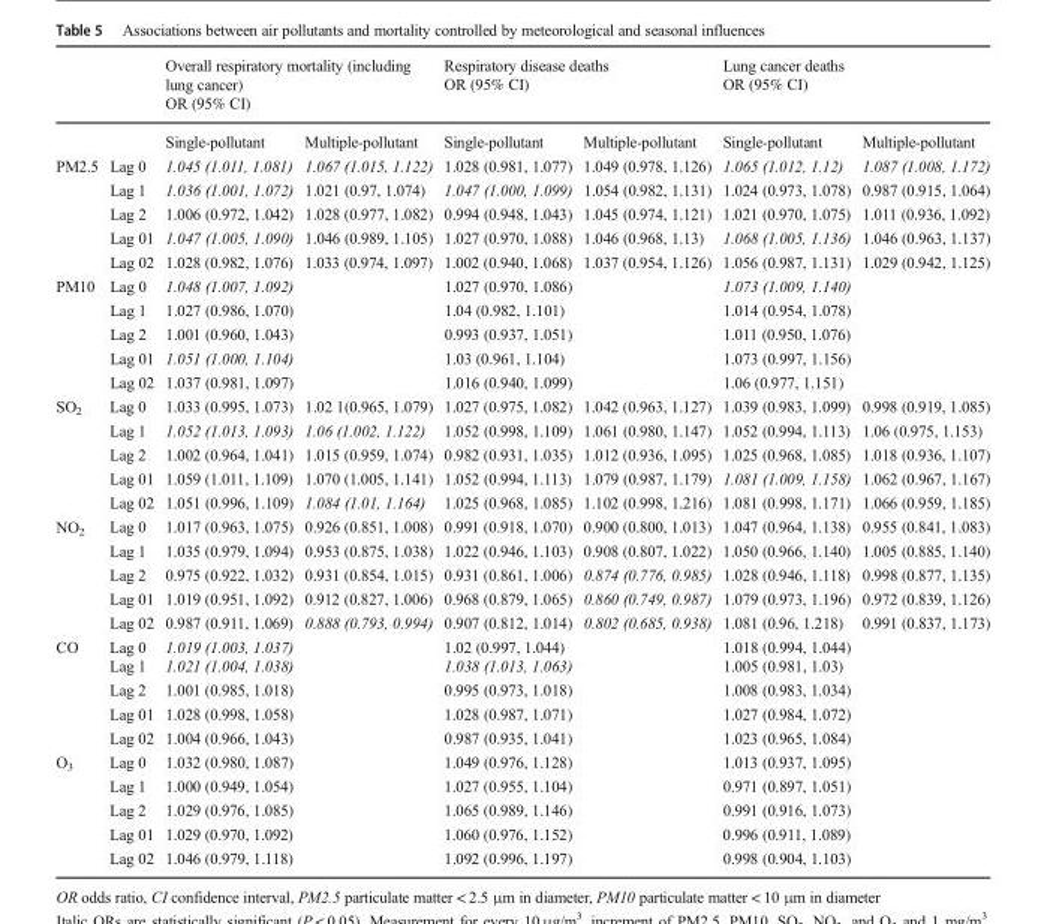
<table><thead><tr><td rowspan="2"></td><td rowspan="2"></td><td colspan="2">Overall respiratory mortality (including lung cancer) OR (95% CI)</td><td colspan="2">Respiratory disease deaths OR (95% CI)</td><td colspan="2">Lung cancer deaths OR (95% CI)</td></tr><tr><td>Single-pollutant</td><td>Multiple-pollutant</td><td>Single-pollutant</td><td>Multiple-pollutant</td><td>Single-pollutant</td><td>Multiple-pollutant</td></tr></thead><tbody><tr><td rowspan="5">PM2.5</td><td>Lag 0</td><td>1.045 (1.011, 1.081)</td><td>1.067 (1.015, 1.122)</td><td>1.028 (0.981, 1.077)</td><td>1.049 (0.978, 1.126)</td><td>1.065 (1.012, 1.12)</td><td>1.087 (1.008, 1.172)</td></tr><tr><td>Lag 1</td><td>1.036 (1.001, 1.072)</td><td>1.021 (0.97, 1.074)</td><td>1.047 (1.000, 1.099)</td><td>1.054 (0.982, 1.131)</td><td>1.024 (0.973, 1.078)</td><td>0.987 (0.915, 1.064)</td></tr><tr><td>Lag 2</td><td>1.006 (0.972, 1.042)</td><td>1.028 (0.977, 1.082)</td><td>0.994 (0.948, 1.043)</td><td>1.045 (0.974, 1.121)</td><td>1.021 (0.970, 1.075)</td><td>1.011 (0.936, 1.092)</td></tr><tr><td>Lag 01</td><td>1.047 (1.005, 1.090)</td><td>1.046 (0.989, 1.105)</td><td>1.027 (0.970, 1.088)</td><td>1.046 (0.968, 1.13)</td><td>1.068 (1.005, 1.136)</td><td>1.046 (0.963, 1.137)</td></tr><tr><td>Lag 02</td><td>1.028 (0.982, 1.076)</td><td>1.033 (0.974, 1.097)</td><td>1.002 (0.940, 1.068)</td><td>1.037 (0.954, 1.126)</td><td>1.056 (0.987, 1.131)</td><td>1.029 (0.942, 1.125)</td></tr><tr><td rowspan="5">PM10</td><td>Lag 0</td><td>1.048 (1.007, 1.092)</td><td></td><td>1.027 (0.970, 1.086)</td><td></td><td>1.073 (1.009, 1.140)</td><td></td></tr><tr><td>Lag 1</td><td>1.027 (0.986, 1.070)</td><td></td><td>1.04 (0.982, 1.101)</td><td></td><td>1.014 (0.954, 1.078)</td><td></td></tr><tr><td>Lag 2</td><td>1.001 (0.960, 1.043)</td><td></td><td>0.993 (0.937, 1.051)</td><td></td><td>1.011 (0.950, 1.076)</td><td></td></tr><tr><td>Lag 01</td><td>1.051 (1.000, 1.104)</td><td></td><td>1.03 (0.961, 1.104)</td><td></td><td>1.073 (0.997, 1.156)</td><td></td></tr><tr><td>Lag 02</td><td>1.037 (0.981, 1.097)</td><td></td><td>1.016 (0.940, 1.099)</td><td></td><td>1.06 (0.977, 1.151)</td><td></td></tr><tr><td rowspan="5">SO<sub>2</sub></td><td>Lag 0</td><td>1.033 (0.995, 1.073)</td><td>1.02 1(0.965, 1.079)</td><td>1.027 (0.975, 1.082)</td><td>1.042 (0.963, 1.127)</td><td>1.039 (0.983, 1.099)</td><td>0.998 (0.919, 1.085)</td></tr><tr><td>Lag 1</td><td>1.052 (1.013, 1.093)</td><td>1.06 (1.002, 1.122)</td><td>1.052 (0.998, 1.109)</td><td>1.061 (0.980, 1.147)</td><td>1.052 (0.994, 1.113)</td><td>1.06 (0.975, 1.153)</td></tr><tr><td>Lag 2</td><td>1.002 (0.964, 1.041)</td><td>1.015 (0.959, 1.074)</td><td>0.982 (0.931, 1.035)</td><td>1.012 (0.936, 1.095)</td><td>1.025 (0.968, 1.085)</td><td>1.018 (0.936, 1.107)</td></tr><tr><td>Lag 01</td><td>1.059 (1.011, 1.109)</td><td>1.070 (1.005, 1.141)</td><td>1.052 (0.994, 1.113)</td><td>1.079 (0.987, 1.179)</td><td>1.081 (1.009, 1.158)</td><td>1.062 (0.967, 1.167)</td></tr><tr><td>Lag 02</td><td>1.051 (0.996, 1.109)</td><td>1.084 (1.01, 1.164)</td><td>1.025 (0.968, 1.085)</td><td>1.102 (0.998, 1.216)</td><td>1.081 (0.998, 1.171)</td><td>1.066 (0.959, 1.185)</td></tr><tr><td rowspan="5">NO<sub>2</sub></td><td>Lag 0</td><td>1.017 (0.963, 1.075)</td><td>0.926 (0.851, 1.008)</td><td>0.991 (0.918, 1.070)</td><td>0.900 (0.800, 1.013)</td><td>1.047 (0.964, 1.138)</td><td>0.955 (0.841, 1.083)</td></tr><tr><td>Lag 1</td><td>1.035 (0.979, 1.094)</td><td>0.953 (0.875, 1.038)</td><td>1.022 (0.946, 1.103)</td><td>0.908 (0.807, 1.022)</td><td>1.050 (0.966, 1.140)</td><td>1.005 (0.885, 1.140)</td></tr><tr><td>Lag 2</td><td>0.975 (0.922, 1.032)</td><td>0.931 (0.854, 1.015)</td><td>0.931 (0.861, 1.006)</td><td>0.874 (0.776, 0.985)</td><td>1.028 (0.946, 1.118)</td><td>0.998 (0.877, 1.135)</td></tr><tr><td>Lag 01</td><td>1.019 (0.951, 1.092)</td><td>0.912 (0.827, 1.006)</td><td>0.968 (0.879, 1.065)</td><td>0.860 (0.749, 0.987)</td><td>1.079 (0.973, 1.196)</td><td>0.972 (0.839, 1.126)</td></tr><tr><td>Lag 02</td><td>0.987 (0.911, 1.069)</td><td>0.888 (0.793, 0.994)</td><td>0.907 (0.812, 1.014)</td><td>0.802 (0.685, 0.938)</td><td>1.081 (0.96, 1.218)</td><td>0.991 (0.837, 1.173)</td></tr><tr><td rowspan="5">CO</td><td>Lag 0</td><td>1.019 (1.003, 1.037)</td><td rowspan="5"></td><td>1.02 (0.997, 1.044)</td><td rowspan="5"></td><td>1.018 (0.994, 1.044)</td><td rowspan="10"></td></tr><tr><td>Lag 1</td><td>1.021 (1.004, 1.038)</td><td>1.038 (1.013, 1.063)</td><td>1.005 (0.981, 1.03)</td></tr><tr><td>Lag 2</td><td>1.001 (0.985, 1.018)</td><td>0.995 (0.973, 1.018)</td><td>1.008 (0.983, 1.034)</td></tr><tr><td>Lag 01</td><td>1.028 (0.998, 1.058)</td><td>1.028 (0.987, 1.071)</td><td>1.027 (0.984, 1.072)</td></tr><tr><td>Lag 02</td><td>1.004 (0.966, 1.043)</td><td>0.987 (0.935, 1.041)</td><td>1.023 (0.965, 1.084)</td></tr><tr><td rowspan="5">O<sub>3</sub></td><td>Lag 0</td><td>1.032 (0.980, 1.087)</td><td rowspan="5"></td><td>1.049 (0.976, 1.128)</td><td rowspan="5"></td><td>1.013 (0.937, 1.095)</td></tr><tr><td>Lag 1</td><td>1.000 (0.949, 1.054)</td><td>1.027 (0.955, 1.104)</td><td>0.971 (0.897, 1.051)</td></tr><tr><td>Lag 2</td><td>1.029 (0.976, 1.085)</td><td>1.065 (0.989, 1.146)</td><td>0.991 (0.916, 1.073)</td></tr><tr><td>Lag 01</td><td>1.029 (0.970, 1.092)</td><td>1.060 (0.976, 1.152)</td><td>0.996 (0.911, 1.089)</td></tr><tr><td>Lag 02</td><td>1.046 (0.979, 1.118)</td><td>1.092 (0.996, 1.197)</td><td>0.998 (0.904, 1.103)</td></tr></tbody></table>